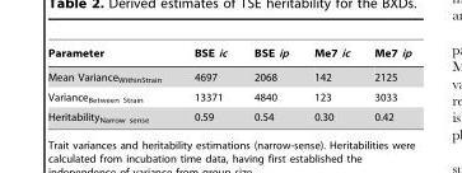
<table><thead><tr><td>Parameter</td><td>BSE ic</td><td>BSE ip</td><td>Me7 ic</td><td>Me7 ip</td></tr></thead><tbody><tr><td>Mean Variance<sub>WithinStrain</sub></td><td>4697</td><td>2068</td><td>142</td><td>2125</td></tr><tr><td>Variance<sub>Between Strain</sub></td><td>13371</td><td>4840</td><td>123</td><td>3033</td></tr><tr><td>Heritability<sub>Narrow sense</sub></td><td>0.59</td><td>0.54</td><td>0.30</td><td>0.42</td></tr></tbody></table>